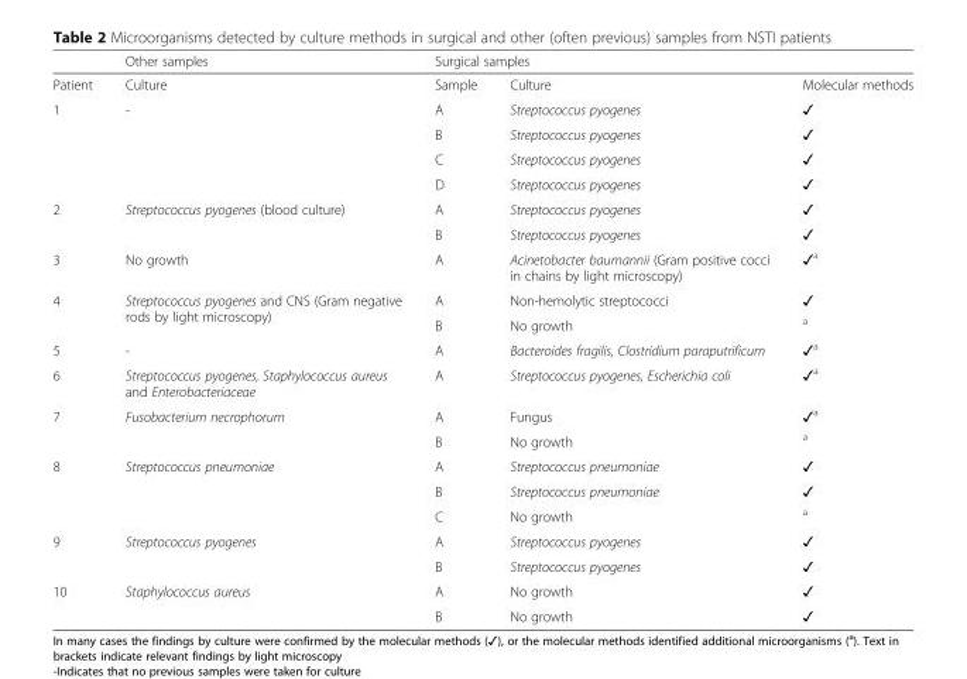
<table><thead><tr><td rowspan="2">Patient</td><td rowspan="2">Other samples Culture</td><td colspan="3">Surgical samples</td></tr><tr><td>Sample</td><td>Culture</td><td>Molecular methods</td></tr></thead><tbody><tr><td rowspan="4">1</td><td rowspan="4">-</td><td>A</td><td>Streptococcus pyogenes</td><td>✓</td></tr><tr><td>B</td><td>Streptococcus pyogenes</td><td>✓</td></tr><tr><td>C</td><td>Streptococcus pyogenes</td><td>✓</td></tr><tr><td>D</td><td>Streptococcus pyogenes</td><td>✓</td></tr><tr><td rowspan="2">2</td><td rowspan="2">Streptococcus pyogenes (blood culture)</td><td>A</td><td>Streptococcus pyogenes</td><td>✓</td></tr><tr><td>B</td><td>Streptococcus pyogenes</td><td>✓</td></tr><tr><td>3</td><td>No growth</td><td>A</td><td>Acinetobacter baumannii (Gram positive cocci in chains by light microscopy)</td><td>✓<sup>a</sup></td></tr><tr><td rowspan="2">4</td><td rowspan="2">Streptococcus pyogenes and CNS (Gram negative rods by light microscopy)</td><td>A</td><td>Non-hemolytic streptococci</td><td>✓</td></tr><tr><td>B</td><td>No growth</td><td><sup>a</sup></td></tr><tr><td>5</td><td>-</td><td>A</td><td>Bacteroides fragilis, Clostridium paraputrificum</td><td>✓<sup>a</sup></td></tr><tr><td>6</td><td>Streptococcus pyogenes, Staphylococcus aureus and Enterobacteriaceae</td><td>A</td><td>Streptococcus pyogenes, Escherichia coli</td><td>✓<sup>a</sup></td></tr><tr><td rowspan="2">7</td><td rowspan="2">Fusobacterium necrophorum</td><td>A</td><td>Fungus</td><td>✓<sup>a</sup></td></tr><tr><td>B</td><td>No growth</td><td><sup>a</sup></td></tr><tr><td rowspan="3">8</td><td rowspan="3">Streptococcus pneumoniae</td><td>A</td><td>Streptococcus pneumoniae</td><td>✓</td></tr><tr><td>B</td><td>Streptococcus pneumoniae</td><td>✓</td></tr><tr><td>C</td><td>No growth</td><td><sup>a</sup></td></tr><tr><td rowspan="2">9</td><td rowspan="2">Streptococcus pyogenes</td><td>A</td><td>Streptococcus pyogenes</td><td>✓</td></tr><tr><td>B</td><td>Streptococcus pyogenes</td><td>✓</td></tr><tr><td rowspan="2">10</td><td rowspan="2">Staphylococcus aureus</td><td>A</td><td>No growth</td><td>✓</td></tr><tr><td>B</td><td>No growth</td><td>✓</td></tr></tbody></table>